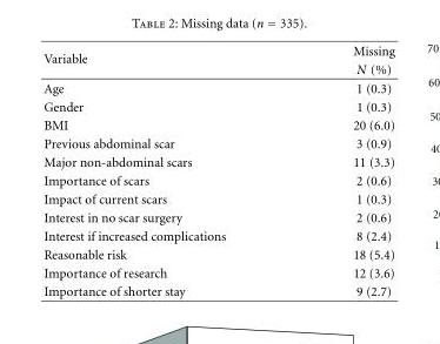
<table><thead><tr><td rowspan="2">Variable</td><td rowspan="2">Missing N (%)</td></tr><tr></tr></thead><tbody><tr><td>Age</td><td>1 (0.3)</td></tr><tr><td>Gender</td><td>1 (0.3)</td></tr><tr><td>BMI</td><td>20 (6.0)</td></tr><tr><td>Previous abdominal scar</td><td>3 (0.9)</td></tr><tr><td>Major non-abdominal scars</td><td>11 (3.3)</td></tr><tr><td>Importance of scars</td><td>2 (0.6)</td></tr><tr><td>Impact of current scars</td><td>1 (0.3)</td></tr><tr><td>Interest in no scar surgery</td><td>2 (0.6)</td></tr><tr><td>Interest if increased complications</td><td>8 (2.4)</td></tr><tr><td>Reasonable risk</td><td>18 (5.4)</td></tr><tr><td>Importance of research</td><td>12 (3.6)</td></tr><tr><td>Importance of shorter stay</td><td>9 (2.7)</td></tr></tbody></table>